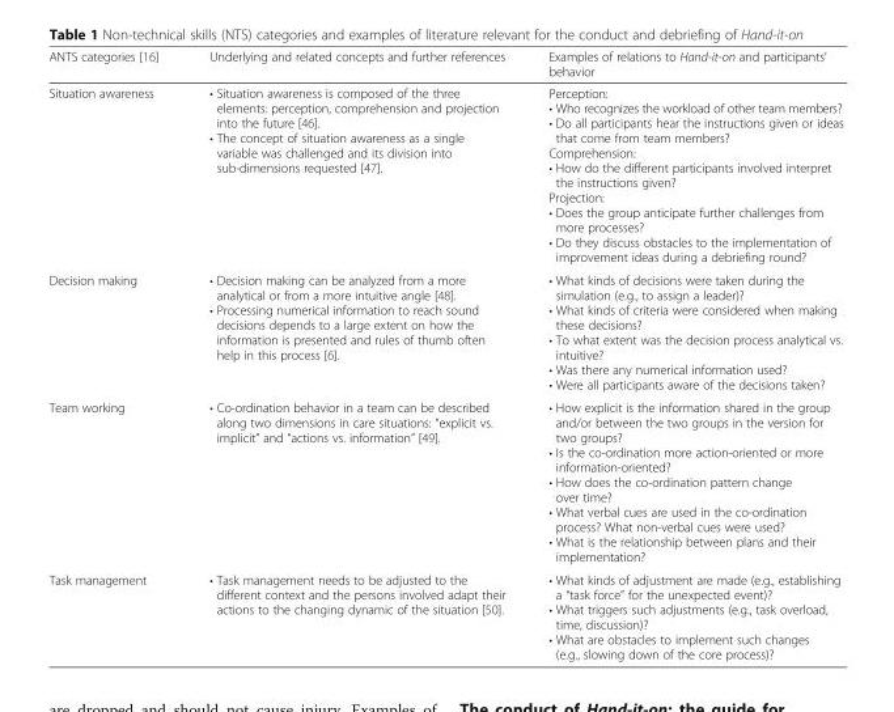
<table><thead><tr><td>ANTS categories [16]</td><td>Underlying and related concepts and further references</td><td>Examples of relations to Hand-it-on and participants’ behavior</td></tr></thead><tbody><tr><td>Situation awareness</td><td>• Situation awareness is composed of the three elements: perception, comprehension and projection into the future [46]. • The concept of situation awareness as a single variable was challenged and its division into sub-dimensions requested [47].</td><td>Perception: • Who recognizes the workload of other team members? • Do all participants hear the instructions given or ideas that come from team members? Comprehension: • How do the different participants involved interpret the instructions given? Projection: • Does the group anticipate further challenges from more processes? • Do they discuss obstacles to the implementation of improvement ideas during a debriefing round?</td></tr><tr><td>Decision making</td><td>• Decision making can be analyzed from a more analytical or from a more intuitive angle [48]. • Processing numerical information to reach sound decisions depends to a large extent on how the information is presented and rules of thumb often help in this process [6].</td><td>• What kinds of decisions were taken during the simulation (e.g., to assign a leader)? • What kinds of criteria were considered when making these decisions? • To what extent was the decision process analytical vs. intuitive? • Was there any numerical information used? • Were all participants aware of the decisions taken?</td></tr><tr><td>Team working</td><td>• Co-ordination behavior in a team can be described along two dimensions in care situations: “explicit vs. implicit” and “actions vs. information” [49].</td><td>• How explicit is the information shared in the group and/or between the two groups in the version for two groups? • Is the co-ordination more action-oriented or more information-oriented? • How does the co-ordination pattern change over time? • What verbal cues are used in the co-ordination process? What non-verbal cues were used? • What is the relationship between plans and their implementation?</td></tr><tr><td>Task management</td><td>• Task management needs to be adjusted to the different context and the persons involved adapt their actions to the changing dynamic of the situation [50].</td><td>• What kinds of adjustment are made (e.g., establishing a “task force” for the unexpected event)? • What triggers such adjustments (e.g., task overload, time, discussion)? • What are obstacles to implement such changes (e.g., slowing down of the core process)?</td></tr></tbody></table>